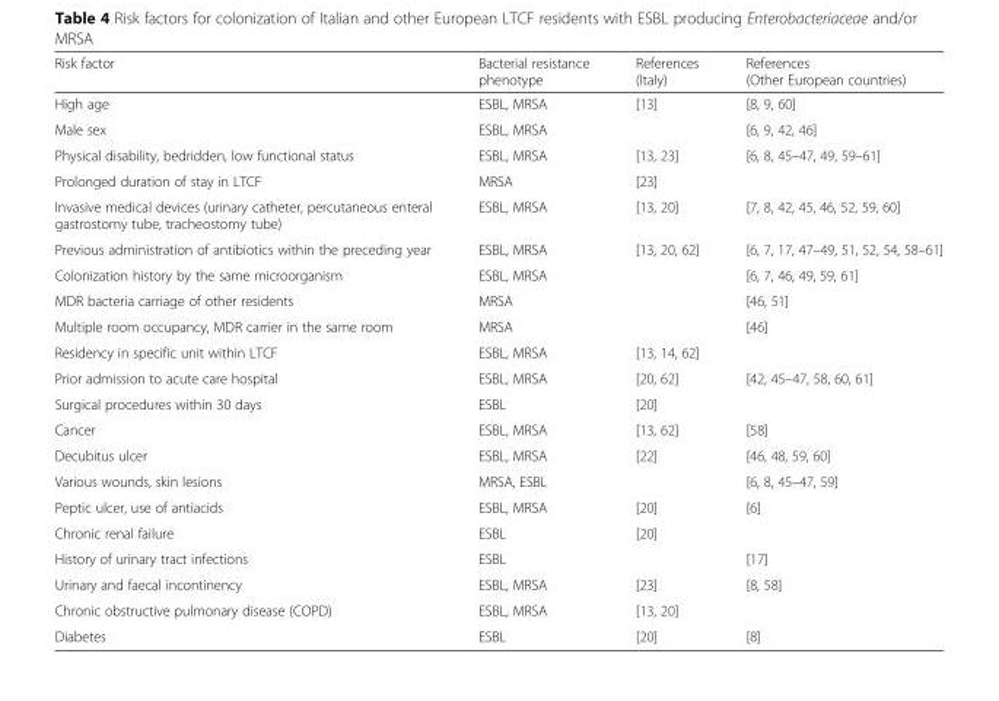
<table><thead><tr><td>Risk factor</td><td>Bacterial resistance phenotype</td><td>References (Italy)</td><td>References (Other European countries)</td></tr></thead><tbody><tr><td>High age</td><td>ESBL, MRSA</td><td>[13]</td><td>[8, 9, 60]</td></tr><tr><td>Male sex</td><td>ESBL, MRSA</td><td></td><td>[6, 9, 42, 46]</td></tr><tr><td>Physical disability, bedridden, low functional status</td><td>ESBL, MRSA</td><td>[13, 23]</td><td>[6, 8, 45–47, 49, 59–61]</td></tr><tr><td>Prolonged duration of stay in LTCF</td><td>MRSA</td><td>[23]</td><td></td></tr><tr><td>Invasive medical devices (urinary catheter, percutaneous enteral gastrostomy tube, tracheostomy tube)</td><td>ESBL, MRSA</td><td>[13, 20]</td><td>[7, 8, 42, 45, 46, 52, 59, 60]</td></tr><tr><td>Previous administration of antibiotics within the preceding year</td><td>ESBL, MRSA</td><td>[13, 20, 62]</td><td>[6, 7, 17, 47–49, 51, 52, 54, 58–61]</td></tr><tr><td>Colonization history by the same microorganism</td><td>ESBL, MRSA</td><td></td><td>[6, 7, 46, 49, 59, 61]</td></tr><tr><td>MDR bacteria carriage of other residents</td><td>MRSA</td><td></td><td>[46, 51]</td></tr><tr><td>Multiple room occupancy, MDR carrier in the same room</td><td>MRSA</td><td></td><td>[46]</td></tr><tr><td>Residency in specific unit within LTCF</td><td>ESBL, MRSA</td><td>[13, 14, 62]</td><td></td></tr><tr><td>Prior admission to acute care hospital</td><td>ESBL, MRSA</td><td>[20, 62]</td><td>[42, 45–47, 58, 60, 61]</td></tr><tr><td>Surgical procedures within 30 days</td><td>ESBL</td><td>[20]</td><td></td></tr><tr><td>Cancer</td><td>ESBL, MRSA</td><td>[13, 62]</td><td>[58]</td></tr><tr><td>Decubitus ulcer</td><td>ESBL, MRSA</td><td>[22]</td><td>[46, 48, 59, 60]</td></tr><tr><td>Various wounds, skin lesions</td><td>MRSA, ESBL</td><td></td><td>[6, 8, 45–47, 59]</td></tr><tr><td>Peptic ulcer, use of antiacids</td><td>ESBL, MRSA</td><td>[20]</td><td>[6]</td></tr><tr><td>Chronic renal failure</td><td>ESBL</td><td>[20]</td><td></td></tr><tr><td>History of urinary tract infections</td><td>ESBL</td><td></td><td>[17]</td></tr><tr><td>Urinary and faecal incontinency</td><td>ESBL, MRSA</td><td>[23]</td><td>[8, 58]</td></tr><tr><td>Chronic obstructive pulmonary disease (COPD)</td><td>ESBL, MRSA</td><td>[13, 20]</td><td></td></tr><tr><td>Diabetes</td><td>ESBL</td><td>[20]</td><td>[8]</td></tr></tbody></table>